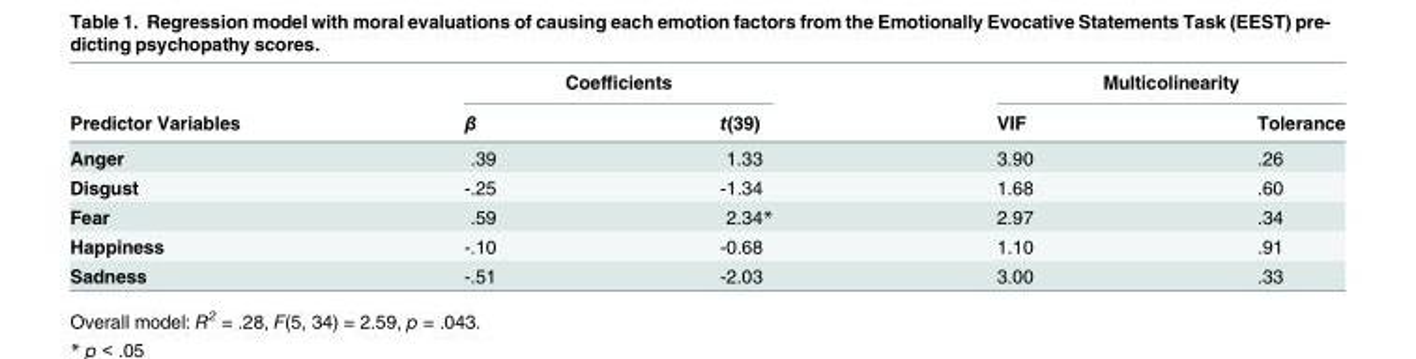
<table><thead><tr><td rowspan="2">Predictor Variables</td><td colspan="2">Coefficients</td><td colspan="2">Multicolinearity</td></tr><tr><td>β</td><td>t(39)</td><td>VIF</td><td>Tolerance</td></tr></thead><tbody><tr><td>Anger</td><td>.39</td><td>1.33</td><td>3.90</td><td>.26</td></tr><tr><td>Disgust</td><td>-.25</td><td>-1.34</td><td>1.68</td><td>.60</td></tr><tr><td>Fear</td><td>.59</td><td>2.34*</td><td>2.97</td><td>.34</td></tr><tr><td>Happiness</td><td>-.10</td><td>-0.68</td><td>1.10</td><td>.91</td></tr><tr><td>Sadness</td><td>-.51</td><td>-2.03</td><td>3.00</td><td>.33</td></tr></tbody></table>